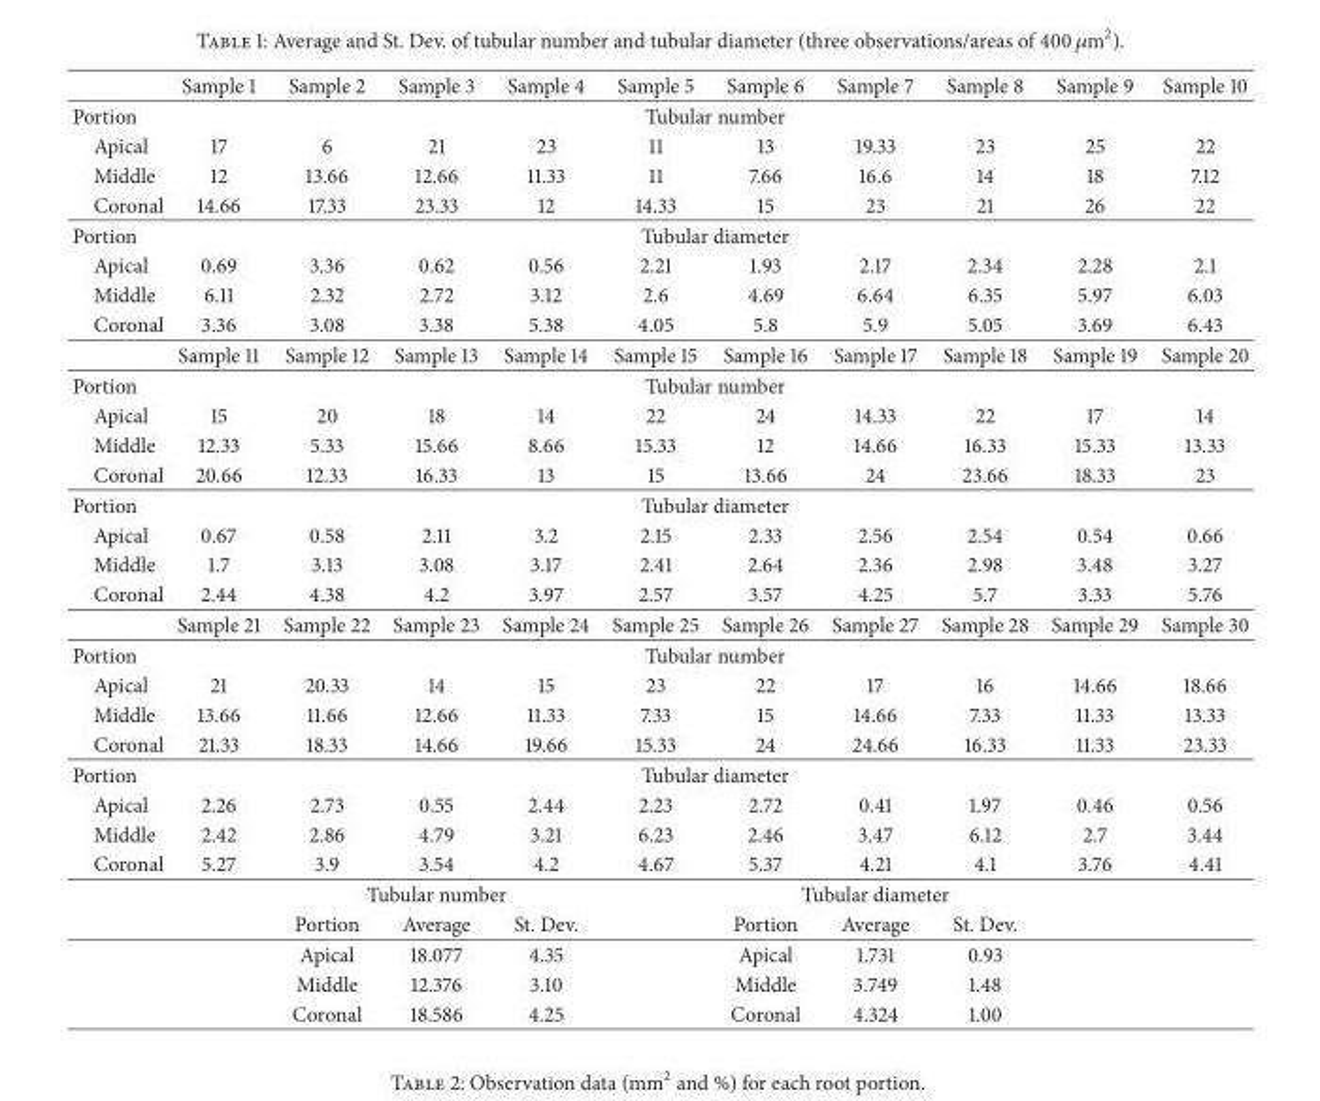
<table><thead><tr><td></td><td>Sample 1</td><td>Sample 2</td><td>Sample 3</td><td>Sample 4</td><td>Sample 5</td><td>Sample 6</td><td>Sample 7</td><td>Sample 8</td><td>Sample 9</td><td>Sample 10</td></tr></thead><tbody><tr><td>Portion</td><td colspan="10">Tubular number</td></tr><tr><td>Apical</td><td>17</td><td>6</td><td>21</td><td>23</td><td>11</td><td>13</td><td>19.33</td><td>23</td><td>25</td><td>22</td></tr><tr><td>Middle</td><td>12</td><td>13.66</td><td>12.66</td><td>11.33</td><td>11</td><td>7.66</td><td>16.6</td><td>14</td><td>18</td><td>7.12</td></tr><tr><td>Coronal</td><td>14.66</td><td>17.33</td><td>23.33</td><td>12</td><td>14.33</td><td>15</td><td>23</td><td>21</td><td>26</td><td>22</td></tr><tr><td>Portion</td><td colspan="10">Tubular diameter</td></tr><tr><td>Apical</td><td>0.69</td><td>3.36</td><td>0.62</td><td>0.56</td><td>2.21</td><td>1.93</td><td>2.17</td><td>2.34</td><td>2.28</td><td>2.1</td></tr><tr><td>Middle</td><td>6.11</td><td>2.32</td><td>2.72</td><td>3.12</td><td>2.6</td><td>4.69</td><td>6.64</td><td>6.35</td><td>5.97</td><td>6.03</td></tr><tr><td rowspan="2">Coronal</td><td>3.36</td><td>3.08</td><td>3.38</td><td>5.38</td><td>4.05</td><td>5.8</td><td>5.9</td><td>5.05</td><td>3.69</td><td>6.43</td></tr><tr><td>Sample 11</td><td>Sample 12</td><td>Sample 13</td><td>Sample 14</td><td>Sample 15</td><td>Sample 16</td><td>Sample 17</td><td>Sample 18</td><td>Sample 19</td><td>Sample 20</td></tr><tr><td>Portion</td><td colspan="10">Tubular number</td></tr><tr><td>Apical</td><td>15</td><td>20</td><td>18</td><td>14</td><td>22</td><td>24</td><td>14.33</td><td>22</td><td>17</td><td>14</td></tr><tr><td>Middle</td><td>12.33</td><td>5.33</td><td>15.66</td><td>8.66</td><td>15.33</td><td>12</td><td>14.66</td><td>16.33</td><td>15.33</td><td>13.33</td></tr><tr><td>Coronal</td><td>20.66</td><td>12.33</td><td>16.33</td><td>13</td><td>15</td><td>13.66</td><td>24</td><td>23.66</td><td>18.33</td><td>23</td></tr><tr><td>Portion</td><td colspan="10">Tubular diameter</td></tr><tr><td>Apical</td><td>0.67</td><td>0.58</td><td>2.11</td><td>3.2</td><td>2.15</td><td>2.33</td><td>2.56</td><td>2.54</td><td>0.54</td><td>0.66</td></tr><tr><td>Middle</td><td>1.7</td><td>3.13</td><td>3.08</td><td>3.17</td><td>2.41</td><td>2.64</td><td>2.36</td><td>2.98</td><td>3.48</td><td>3.27</td></tr><tr><td rowspan="2">Coronal</td><td>2.44</td><td>4.38</td><td>4.2</td><td>3.97</td><td>2.57</td><td>3.57</td><td>4.25</td><td>5.7</td><td>3.33</td><td>5.76</td></tr><tr><td>Sample 21</td><td>Sample 22</td><td>Sample 23</td><td>Sample 24</td><td>Sample 25</td><td>Sample 26</td><td>Sample 27</td><td>Sample 28</td><td>Sample 29</td><td>Sample 30</td></tr><tr><td>Portion</td><td colspan="10">Tubular number</td></tr><tr><td>Apical</td><td>21</td><td>20.33</td><td>14</td><td>15</td><td>23</td><td>22</td><td>17</td><td>16</td><td>14.66</td><td>18.66</td></tr><tr><td>Middle</td><td>13.66</td><td>11.66</td><td>12.66</td><td>11.33</td><td>7.33</td><td>15</td><td>14.66</td><td>7.33</td><td>11.33</td><td>13.33</td></tr><tr><td>Coronal</td><td>21.33</td><td>18.33</td><td>14.66</td><td>19.66</td><td>15.33</td><td>24</td><td>24.66</td><td>16.33</td><td>11.33</td><td>23.33</td></tr><tr><td>Portion</td><td colspan="10">Tubular diameter</td></tr><tr><td>Apical</td><td>2.26</td><td>2.73</td><td>0.55</td><td>2.44</td><td>2.23</td><td>2.72</td><td>0.41</td><td>1.97</td><td>0.46</td><td>0.56</td></tr><tr><td>Middle</td><td>2.42</td><td>2.86</td><td>4.79</td><td>3.21</td><td>6.23</td><td>2.46</td><td>3.47</td><td>6.12</td><td>2.7</td><td>3.44</td></tr><tr><td rowspan="6">Coronal</td><td>5.27</td><td>3.9</td><td>3.54</td><td>4.2</td><td>4.67</td><td>5.37</td><td>4.21</td><td>4.1</td><td>3.76</td><td>4.41</td></tr><tr><td></td><td colspan="3">Tubular number</td><td></td><td colspan="3">Tubular diameter</td><td></td><td></td></tr><tr><td></td><td>Portion</td><td>Average</td><td>St. Dev.</td><td></td><td>Portion</td><td>Average</td><td>St. Dev.</td><td></td><td></td></tr><tr><td></td><td>Apical</td><td>18.077</td><td>4.35</td><td></td><td>Apical</td><td>1.731</td><td>0.93</td><td></td><td></td></tr><tr><td></td><td>Middle</td><td>12.376</td><td>3.10</td><td></td><td>Middle</td><td>3.749</td><td>1.48</td><td></td><td></td></tr><tr><td></td><td>Coronal</td><td>18.586</td><td>4.25</td><td></td><td>Coronal</td><td>4.324</td><td>1.00</td><td></td><td></td></tr></tbody></table>